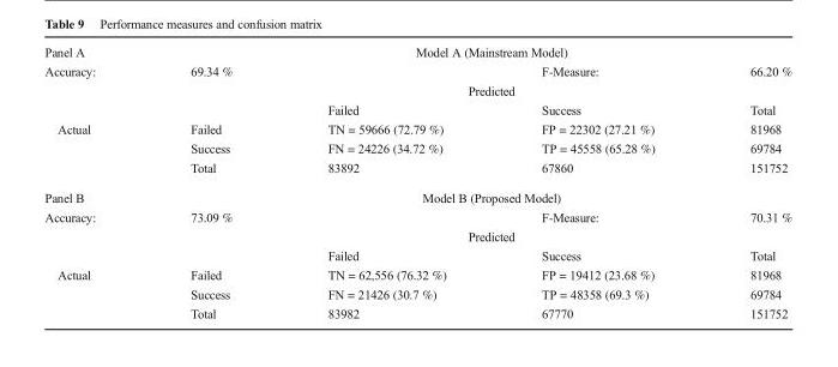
<table><tbody><tr><td>Panel A</td><td colspan="4">Model A (Mainstream Model)</td></tr><tr><td rowspan="3">Accuracy:</td><td>69.34 %</td><td></td><td>F-Measure:</td><td>66.20 %</td></tr><tr><td rowspan="2"></td><td colspan="2">Predicted</td><td></td></tr><tr><td>Failed</td><td>Success</td><td>Total</td></tr><tr><td rowspan="3">Actual</td><td>Failed</td><td>TN = 59666 (72.79 %)</td><td>FP = 22302 (27.21 %)</td><td>81968</td></tr><tr><td>Success</td><td>FN = 24226 (34.72 %)</td><td>TP = 45558 (65.28 %)</td><td>69784</td></tr><tr><td>Total</td><td>83892</td><td>67860</td><td>151752</td></tr><tr><td>Panel B</td><td colspan="4">Model B (Proposed Model)</td></tr><tr><td rowspan="3">Accuracy:</td><td>73.09 %</td><td></td><td>F-Measure:</td><td>70.31 %</td></tr><tr><td rowspan="2"></td><td colspan="2">Predicted</td><td></td></tr><tr><td>Failed</td><td>Success</td><td>Total</td></tr><tr><td rowspan="3">Actual</td><td>Failed</td><td>TN = 62,556 (76.32 %)</td><td>FP = 19412 (23.68 %)</td><td>81968</td></tr><tr><td>Success</td><td>FN = 21426 (30.7 %)</td><td>TP = 48358 (69.3 %)</td><td>69784</td></tr><tr><td>Total</td><td>83982</td><td>67770</td><td>151752</td></tr></tbody></table>